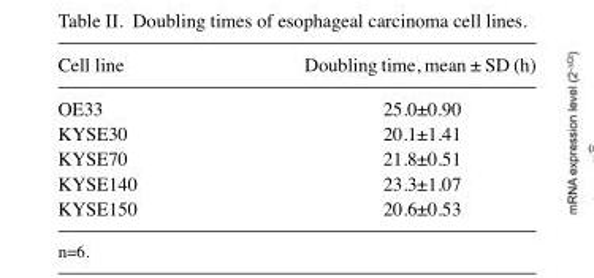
<table><thead><tr><td>Cell line</td><td>Doubling time, mean ± SD (h)</td></tr></thead><tbody><tr><td>OE33</td><td>25.0±0.90</td></tr><tr><td>KYSE30</td><td>20.1±1.41</td></tr><tr><td>KYSE70</td><td>21.8±0.51</td></tr><tr><td>KYSE140</td><td>23.3±1.07</td></tr><tr><td>KYSE150</td><td>20.6±0.53</td></tr></tbody></table>